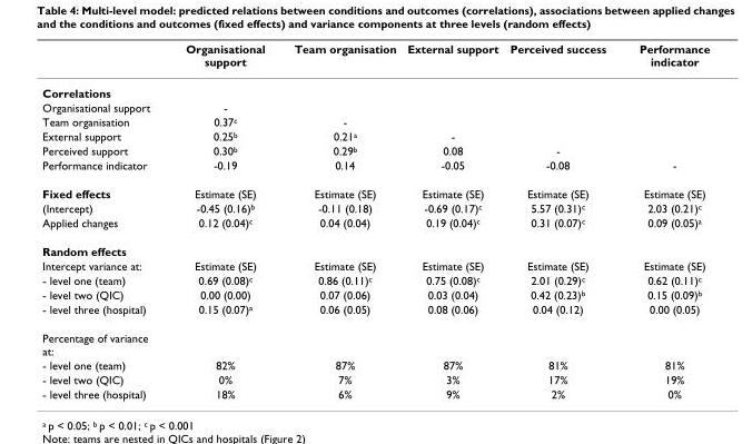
<table><thead><tr><td></td><td>Organisational support</td><td>Team organisation</td><td>External support</td><td>Perceived success</td><td>Performance indicator</td></tr></thead><tbody><tr><td colspan="6">Correlations</td></tr><tr><td>Organisational support</td><td>-</td><td></td><td></td><td></td><td></td></tr><tr><td>Team organisation</td><td>0.37<sup>c</sup></td><td>-</td><td></td><td></td><td></td></tr><tr><td>External support</td><td>0.25<sup>b</sup></td><td>0.21<sup>a</sup></td><td>-</td><td></td><td></td></tr><tr><td>Perceived support</td><td>0.30<sup>b</sup></td><td>0.29<sup>b</sup></td><td>0.08</td><td>-</td><td></td></tr><tr><td>Performance indicator</td><td>-0.19</td><td>0.14</td><td>-0.05</td><td>-0.08</td><td>-</td></tr><tr><td>Fixed effects</td><td>Estimate (SE)</td><td>Estimate (SE)</td><td>Estimate (SE)</td><td>Estimate (SE)</td><td>Estimate (SE)</td></tr><tr><td>(Intercept)</td><td>-0.45 (0.16)<sup>b</sup></td><td>-0.11 (0.18)</td><td>-0.69 (0.17)<sup>c</sup></td><td>5.57 (0.31)<sup>c</sup></td><td>2.03 (0.21)<sup>c</sup></td></tr><tr><td>Applied changes</td><td>0.12 (0.04)<sup>c</sup></td><td>0.04 (0.04)</td><td>0.19 (0.04)<sup>c</sup></td><td>0.31 (0.07)<sup>c</sup></td><td>0.09 (0.05)<sup>a</sup></td></tr><tr><td colspan="6">Random effects</td></tr><tr><td>Intercept variance at:</td><td>Estimate (SE)</td><td>Estimate (SE)</td><td>Estimate (SE)</td><td>Estimate (SE)</td><td>Estimate (SE)</td></tr><tr><td>- level one (team)</td><td>0.69 (0.08)<sup>c</sup></td><td>0.86 (0.11)<sup>c</sup></td><td>0.75 (0.08)<sup>c</sup></td><td>2.01 (0.29)<sup>c</sup></td><td>0.62 (0.11)<sup>c</sup></td></tr><tr><td>- level two (QIC)</td><td>0.00 (0.00)</td><td>0.07 (0.06)</td><td>0.03 (0.04)</td><td>0.42 (0.23)<sup>b</sup></td><td>0.15 (0.09)<sup>b</sup></td></tr><tr><td>- level three (hospital)</td><td>0.15 (0.07)<sup>a</sup></td><td>0.06 (0.05)</td><td>0.08 (0.06)</td><td>0.04 (0.12)</td><td>0.00 (0.05)</td></tr><tr><td colspan="6">Percentage of variance at:</td></tr><tr><td>- level one (team)</td><td>82%</td><td>87%</td><td>87%</td><td>81%</td><td>81%</td></tr><tr><td>- level two (QIC)</td><td>0%</td><td>7%</td><td>3%</td><td>17%</td><td>19%</td></tr><tr><td>- level three (hospital)</td><td>18%</td><td>6%</td><td>9%</td><td>2%</td><td>0%</td></tr></tbody></table>